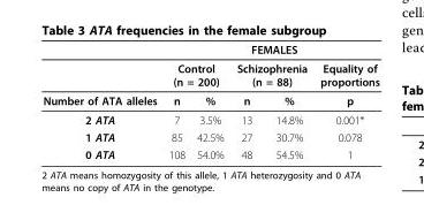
<table><thead><tr><td rowspan="3">Number of ATA alleles</td><td colspan="5">FEMALES</td></tr><tr><td colspan="2">Control (n = 200)</td><td colspan="2">Schizophrenia (n = 88)</td><td rowspan="2">Equality of proportions p</td></tr><tr><td>n</td><td>%</td><td>n</td><td>%</td></tr></thead><tbody><tr><td>2 ATA</td><td>7</td><td>3.5%</td><td>13</td><td>14.8%</td><td>0.001*</td></tr><tr><td>1 ATA</td><td>85</td><td>42.5%</td><td>27</td><td>30.7%</td><td>0.078</td></tr><tr><td>0 ATA</td><td>108</td><td>54.0%</td><td>48</td><td>54.5%</td><td>1</td></tr></tbody></table>